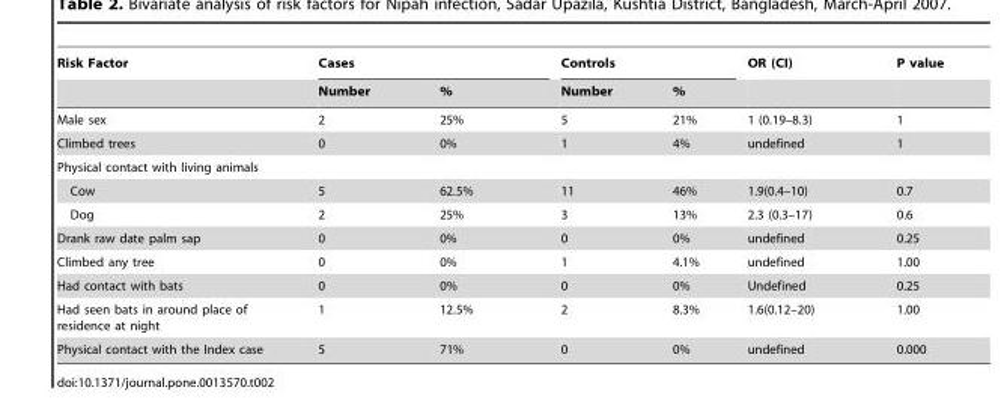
<table><thead><tr><td rowspan="2">Risk Factor</td><td colspan="2">Cases</td><td colspan="2">Controls</td><td rowspan="2">OR (CI)</td><td rowspan="2">P value</td></tr><tr><td>Number</td><td>%</td><td>Number</td><td>%</td></tr></thead><tbody><tr><td>Male sex</td><td>2</td><td>25%</td><td>5</td><td>21%</td><td>1 (0.19–8.3)</td><td>1</td></tr><tr><td>Climbed trees</td><td>0</td><td>0%</td><td>1</td><td>4%</td><td>undefined</td><td>1</td></tr><tr><td colspan="7">Physical contact with living animals</td></tr><tr><td>Cow</td><td>5</td><td>62.5%</td><td>11</td><td>46%</td><td>1.9(0.4–10)</td><td>0.7</td></tr><tr><td>Dog</td><td>2</td><td>25%</td><td>3</td><td>13%</td><td>2.3 (0.3–17)</td><td>0.6</td></tr><tr><td>Drank raw date palm sap</td><td>0</td><td>0%</td><td>0</td><td>0%</td><td>undefined</td><td>0.25</td></tr><tr><td>Climbed any tree</td><td>0</td><td>0%</td><td>1</td><td>4.1%</td><td>undefined</td><td>1.00</td></tr><tr><td>Had contact with bats</td><td>0</td><td>0%</td><td>0</td><td>0%</td><td>Undefined</td><td>0.25</td></tr><tr><td>Had seen bats in around place of residence at night</td><td>1</td><td>12.5%</td><td>2</td><td>8.3%</td><td>1.6(0.12–20)</td><td>1.00</td></tr><tr><td>Physical contact with the Index case</td><td>5</td><td>71%</td><td>0</td><td>0%</td><td>undefined</td><td>0.000</td></tr></tbody></table>